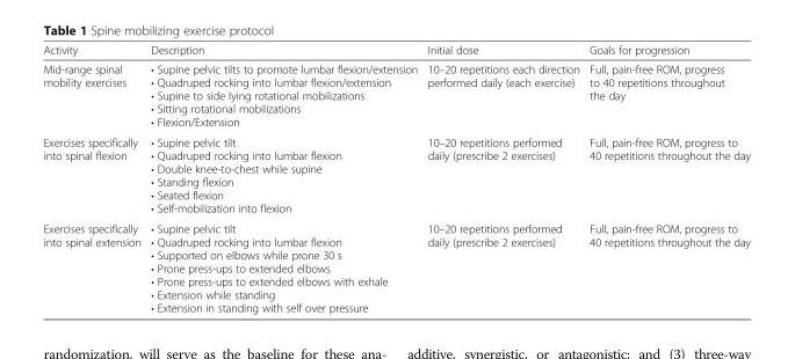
<table><thead><tr><td>Activity</td><td>Description</td><td>Initial dose</td><td>Goals for progression</td></tr></thead><tbody><tr><td>Mid-range spinal mobility exercises</td><td>• Supine pelvic tilts to promote lumbar flexion/extension • Quadruped rocking into lumbar flexion/extension • Supine to side lying rotational mobilizations • Sitting rotational mobilizations • Flexion/Extension</td><td>10–20 repetitions each direction performed daily (each exercise)</td><td>Full, pain-free ROM, progress to 40 repetitions throughout the day</td></tr><tr><td>Exercises specifically into spinal flexion</td><td>• Supine pelvic tilt • Quadruped rocking into lumbar flexion • Double knee-to-chest while supine • Standing flexion • Seated flexion • Self-mobilization into flexion</td><td>10–20 repetitions performed daily (prescribe 2 exercises)</td><td>Full, pain-free ROM, progress to 40 repetitions throughout the day</td></tr><tr><td>Exercises specifically into spinal extension</td><td>• Supine pelvic tilt • Quadruped rocking into lumbar flexion • Supported on elbows while prone 30 s • Prone press-ups to extended elbows • Prone press-ups to extended elbows with exhale • Extension while standing • Extension in standing with self over pressure</td><td>10–20 repetitions performed daily (prescribe 2 exercises)</td><td>Full, pain-free ROM, progress to 40 repetitions throughout the day</td></tr></tbody></table>